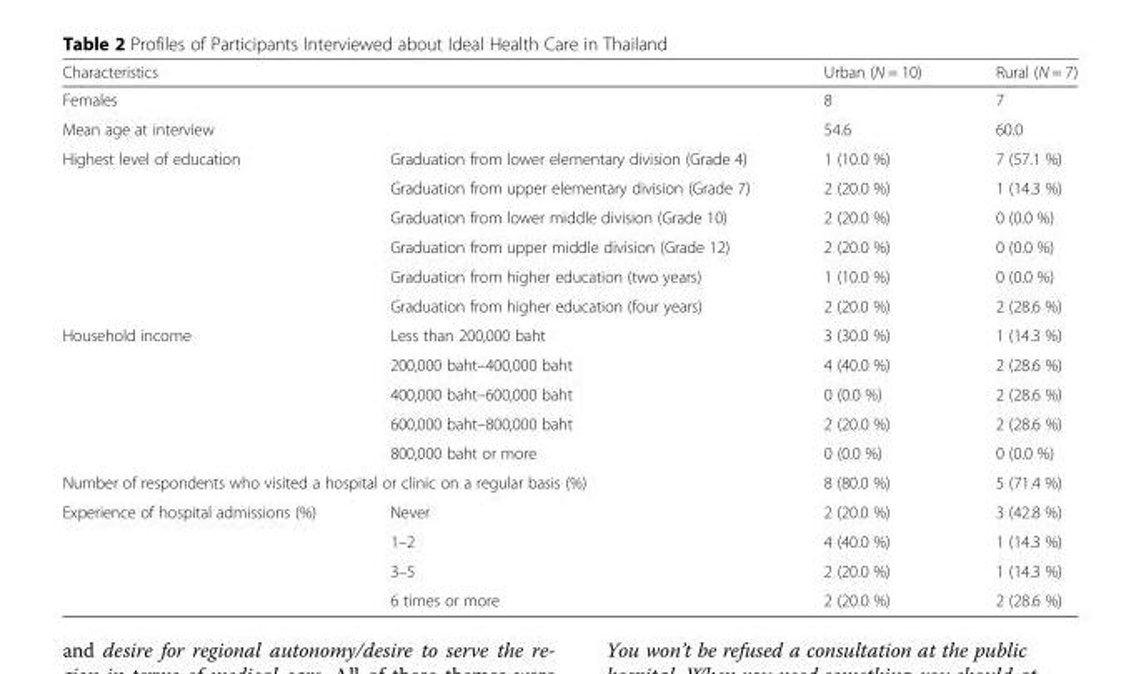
<table><thead><tr><td rowspan="3" colspan="2">Characteristics Females Mean age at interview</td><td rowspan="4">Urban (N = 10) 8 54.6 1 (10.0 %)</td><td rowspan="4">Rural (N = 7) 7 60.0 7 (57.1 %)</td></tr><tr></tr><tr></tr><tr><td>Highest level of education</td><td>Graduation from lower elementary division (Grade 4)</td></tr></thead><tbody><tr><td></td><td>Graduation from upper elementary division (Grade 7)</td><td>2 (20.0 %)</td><td>1 (14.3 %)</td></tr><tr><td></td><td>Graduation from lower middle division (Grade 10)</td><td>2 (20.0 %)</td><td>0 (0.0 %)</td></tr><tr><td></td><td>Graduation from upper middle division (Grade 12)</td><td>2 (20.0 %)</td><td>0 (0.0 %)</td></tr><tr><td></td><td>Graduation from higher education (two years)</td><td>1 (10.0 %)</td><td>0 (0.0 %)</td></tr><tr><td></td><td>Graduation from higher education (four years)</td><td>2 (20.0 %)</td><td>2 (28.6 %)</td></tr><tr><td rowspan="5">Household income</td><td>Less than 200,000 baht</td><td>3 (30.0 %)</td><td>1 (14.3 %)</td></tr><tr><td>200,000 baht–400,000 baht</td><td>4 (40.0 %)</td><td>2 (28.6 %)</td></tr><tr><td>400,000 baht–600,000 baht</td><td>0 (0.0 %)</td><td>2 (28.6 %)</td></tr><tr><td>600,000 baht–800,000 baht</td><td>2 (20.0 %)</td><td>2 (28.6 %)</td></tr><tr><td>800,000 baht or more</td><td>0 (0.0 %)</td><td>0 (0.0 %)</td></tr><tr><td colspan="2">Number of respondents who visited a hospital or clinic on a regular basis (%)</td><td>8 (80.0 %)</td><td>5 (71.4 %)</td></tr><tr><td rowspan="4">Experience of hospital admissions (%)</td><td>Never</td><td>2 (20.0 %)</td><td>3 (42.8 %)</td></tr><tr><td>1–2</td><td>4 (40.0 %)</td><td>1 (14.3 %)</td></tr><tr><td>3–5</td><td>2 (20.0 %)</td><td>1 (14.3 %)</td></tr><tr><td>6 times or more</td><td>2 (20.0 %)</td><td>2 (28.6 %)</td></tr></tbody></table>